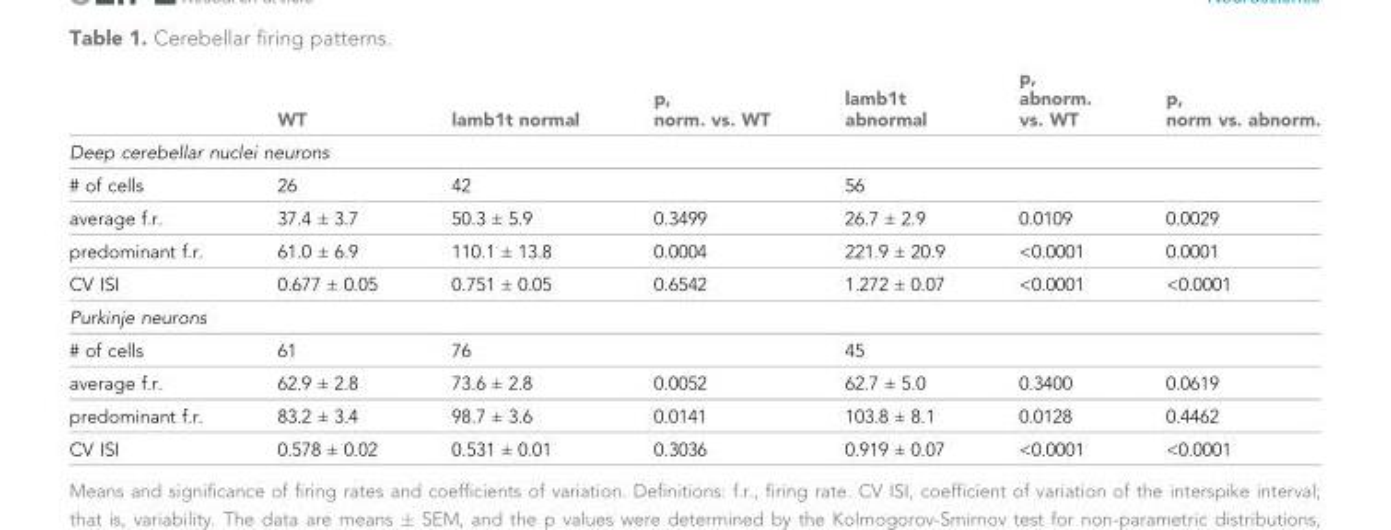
<table><thead><tr><td></td><td>WT</td><td>lamb1t normal</td><td>p, norm. vs. WT</td><td>lamb1t abnormal</td><td>p, abnorm. vs. WT</td><td>p, norm vs. abnorm.</td></tr></thead><tbody><tr><td colspan="7">Deep cerebellar nuclei neurons</td></tr><tr><td># of cells</td><td>26</td><td>42</td><td></td><td>56</td><td></td><td></td></tr><tr><td>average f.r.</td><td>37.4 ± 3.7</td><td>50.3 ± 5.9</td><td>0.3499</td><td>26.7 ± 2.9</td><td>0.0109</td><td>0.0029</td></tr><tr><td>predominant f.r.</td><td>61.0 ± 6.9</td><td>110.1 ± 13.8</td><td>0.0004</td><td>221.9 ± 20.9</td><td>&lt;0.0001</td><td>0.0001</td></tr><tr><td>CV ISI</td><td>0.677 ± 0.05</td><td>0.751 ± 0.05</td><td>0.6542</td><td>1.272 ± 0.07</td><td>&lt;0.0001</td><td>&lt;0.0001</td></tr><tr><td colspan="7">Purkinje neurons</td></tr><tr><td># of cells</td><td>61</td><td>76</td><td></td><td>45</td><td></td><td></td></tr><tr><td>average f.r.</td><td>62.9 ± 2.8</td><td>73.6 ± 2.8</td><td>0.0052</td><td>62.7 ± 5.0</td><td>0.3400</td><td>0.0619</td></tr><tr><td>predominant f.r.</td><td>83.2 ± 3.4</td><td>98.7 ± 3.6</td><td>0.0141</td><td>103.8 ± 8.1</td><td>0.0128</td><td>0.4462</td></tr><tr><td>CV ISI</td><td>0.578 ± 0.02</td><td>0.531 ± 0.01</td><td>0.3036</td><td>0.919 ± 0.07</td><td>&lt;0.0001</td><td>&lt;0.0001</td></tr></tbody></table>